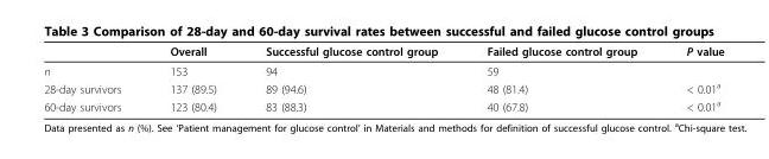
<table><thead><tr><td></td><td>Overall</td><td>Successful glucose control group</td><td>Failed glucose control group</td><td>P value</td></tr></thead><tbody><tr><td>n</td><td>153</td><td>94</td><td>59</td><td></td></tr><tr><td>28-day survivors</td><td>137 (89.5)</td><td>89 (94.6)</td><td>48 (81.4)</td><td>&lt; 0.01<sup>a</sup></td></tr><tr><td>60-day survivors</td><td>123 (80.4)</td><td>83 (88.3)</td><td>40 (67.8)</td><td>&lt; 0.01<sup>a</sup></td></tr></tbody></table>